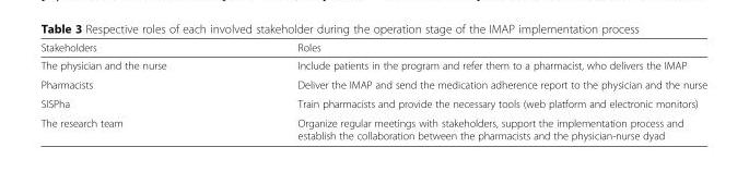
<table><thead><tr><td>Stakeholders</td><td>Roles</td></tr></thead><tbody><tr><td>The physician and the nurse</td><td>Include patients in the program and refer them to a pharmacist, who delivers the IMAP</td></tr><tr><td>Pharmacists</td><td>Deliver the IMAP and send the medication adherence report to the physician and the nurse</td></tr><tr><td>SISPha</td><td>Train pharmacists and provide the necessary tools (web platform and electronic monitors)</td></tr><tr><td>The research team</td><td>Organize regular meetings with stakeholders, support the implementation process and establish the collaboration between the pharmacists and the physician-nurse dyad</td></tr></tbody></table>